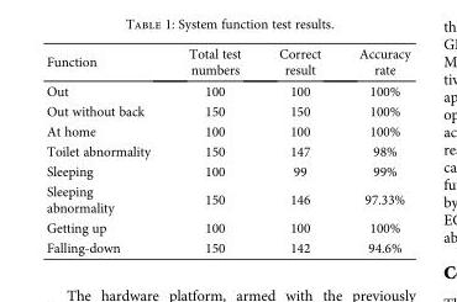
<table><thead><tr><td>Function</td><td>Total test numbers</td><td>Correct result</td><td>Accuracy rate</td></tr></thead><tbody><tr><td>Out</td><td>100</td><td>100</td><td>100%</td></tr><tr><td>Out without back</td><td>150</td><td>150</td><td>100%</td></tr><tr><td>At home</td><td>100</td><td>100</td><td>100%</td></tr><tr><td>Toilet abnormality</td><td>150</td><td>147</td><td>98%</td></tr><tr><td>Sleeping</td><td>100</td><td>99</td><td>99%</td></tr><tr><td>Sleeping abnormality</td><td>150</td><td>146</td><td>97.33%</td></tr><tr><td>Getting up</td><td>100</td><td>100</td><td>100%</td></tr><tr><td>Falling-down</td><td>150</td><td>142</td><td>94.6%</td></tr></tbody></table>